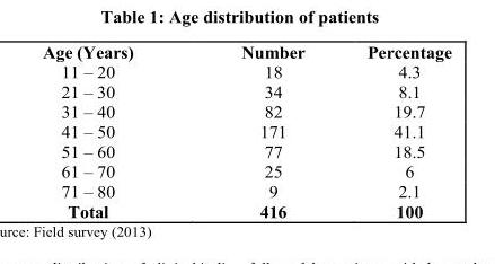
<table><thead><tr><td>Age (Years)</td><td>Number</td><td>Percentage</td></tr></thead><tbody><tr><td>11 – 20</td><td>18</td><td>4.3</td></tr><tr><td>21 – 30</td><td>34</td><td>8.1</td></tr><tr><td>31 – 40</td><td>82</td><td>19.7</td></tr><tr><td>41 – 50</td><td>171</td><td>41.1</td></tr><tr><td>51 – 60</td><td>77</td><td>18.5</td></tr><tr><td>61 – 70</td><td>25</td><td>6</td></tr><tr><td>71 – 80</td><td>9</td><td>2.1</td></tr><tr><td>Total</td><td>416</td><td>100</td></tr></tbody></table>